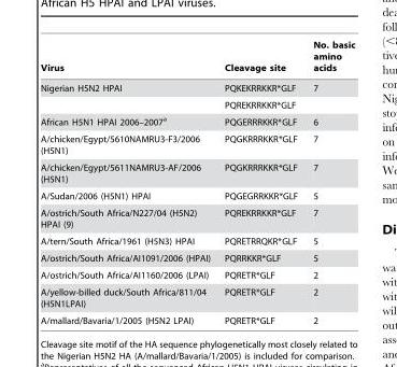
<table><thead><tr><td>Virus</td><td>Cleavage site</td><td>No. basic amino acids</td></tr></thead><tbody><tr><td rowspan="2">Nigerian H5N2 HPAI</td><td>PQKEKRRKKR*GLF</td><td>7</td></tr><tr><td>PQREKRRKKR*GLF</td><td></td></tr><tr><td>African H5N1 HPAI 2006–2007<sup>a</sup></td><td>PQGERRRKKR*GLF</td><td>6</td></tr><tr><td>A/chicken/Egypt/5610NAMRU3-F3/2006 (H5N1)</td><td>PQGKRRRKKR*GLF</td><td>7</td></tr><tr><td>A/chicken/Egypt/5611NAMRU3-AF/2006 (H5N1)</td><td>PQGKRRRKKR*GLF</td><td>7</td></tr><tr><td>A/Sudan/2006 (H5N1) HPAI</td><td>PQGEGRRKKR*GLF</td><td>5</td></tr><tr><td>A/ostrich/South Africa/N227/04 (H5N2) HPAI (9)</td><td>PQREKRRKKR*GLF</td><td>7</td></tr><tr><td>A/tern/South Africa/1961 (H5N3) HPAI</td><td>PQRETRRQKR*GLF</td><td>5</td></tr><tr><td>A/ostrich/South Africa/AI1091/2006 (HPAI)</td><td>PQRRKKR*GLF</td><td>5</td></tr><tr><td>A/ostrich/South Africa/AI1160/2006 (LPAI)</td><td>PQRETR*GLF</td><td>2</td></tr><tr><td>A/yellow-billed duck/South Africa/811/04 (H5N1LPAI)</td><td>PQRETR*GLF</td><td>2</td></tr><tr><td>A/mallard/Bavaria/1/2005 (H5N2 LPAI)</td><td>PQRETR*GLF</td><td>2</td></tr></tbody></table>